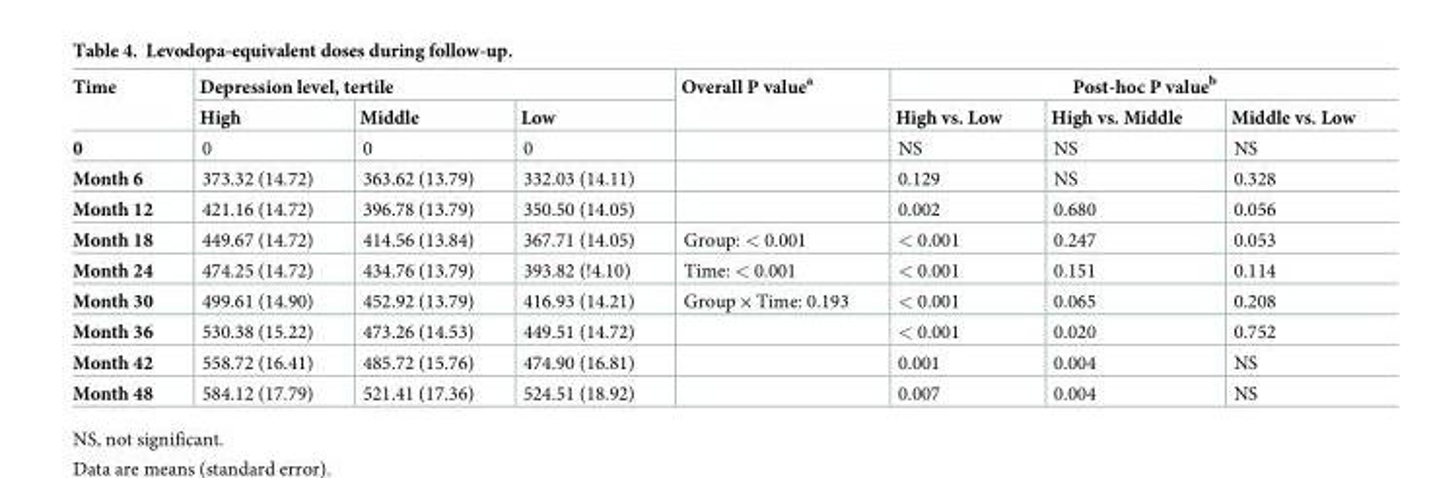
<table><thead><tr><td rowspan="2">Time</td><td colspan="3">Depression level, tertile</td><td rowspan="2">Overall P value<sup>a</sup></td><td colspan="3">Post-hoc P value<sup>b</sup></td></tr><tr><td>High</td><td>Middle</td><td>Low</td><td>High vs. Low</td><td>High vs. Middle</td><td>Middle vs. Low</td></tr></thead><tbody><tr><td>0</td><td>0</td><td>0</td><td>0</td><td></td><td>NS</td><td>NS</td><td>NS</td></tr><tr><td>Month 6</td><td>373.32 (14.72)</td><td>363.62 (13.79)</td><td>332.03 (14.11)</td><td></td><td>0.129</td><td>NS</td><td>0.328</td></tr><tr><td>Month 12</td><td>421.16 (14.72)</td><td>396.78 (13.79)</td><td>350.50 (14.05)</td><td></td><td>0.002</td><td>0.680</td><td>0.056</td></tr><tr><td>Month 18</td><td>449.67 (14.72)</td><td>414.56 (13.84)</td><td>367.71 (14.05)</td><td>Group: &lt; 0.001</td><td>&lt; 0.001</td><td>0.247</td><td>0.053</td></tr><tr><td>Month 24</td><td>474.25 (14.72)</td><td>434.76 (13.79)</td><td>393.82 (!4.10)</td><td>Time: &lt; 0.001</td><td>&lt; 0.001</td><td>0.151</td><td>0.114</td></tr><tr><td>Month 30</td><td>499.61 (14.90)</td><td>452.92 (13.79)</td><td>416.93 (14.21)</td><td>Group × Time: 0.193</td><td>&lt; 0.001</td><td>0.065</td><td>0.208</td></tr><tr><td>Month 36</td><td>530.38 (15.22)</td><td>473.26 (14.53)</td><td>449.51 (14.72)</td><td></td><td>&lt; 0.001</td><td>0.020</td><td>0.752</td></tr><tr><td>Month 42</td><td>558.72 (16.41)</td><td>485.72 (15.76)</td><td>474.90 (16.81)</td><td></td><td>0.001</td><td>0.004</td><td>NS</td></tr><tr><td>Month 48</td><td>584.12 (17.79)</td><td>521.41 (17.36)</td><td>524.51 (18.92)</td><td></td><td>0.007</td><td>0.004</td><td>NS</td></tr></tbody></table>